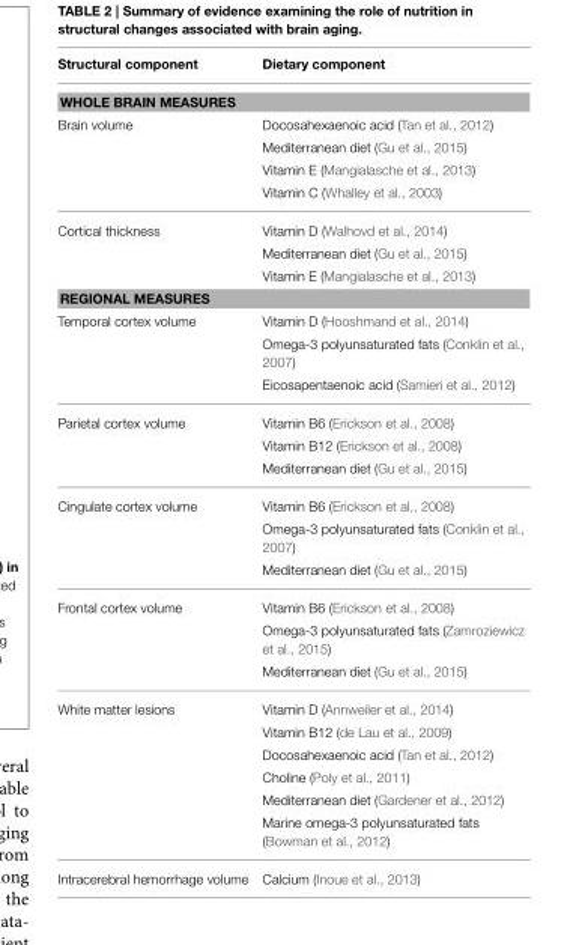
<table><thead><tr><td>Structural component</td><td>Dietary component</td></tr></thead><tbody><tr><td colspan="2">WHOLE BRAIN MEASURES</td></tr><tr><td rowspan="4">Brain volume</td><td>Docosahexaenoic acid (Tan et al., 2012)</td></tr><tr><td>Mediterranean diet (Gu et al., 2015)</td></tr><tr><td>Vitamin E (Mangialasche et al., 2013)</td></tr><tr><td>Vitamin C (Whalley et al., 2003)</td></tr><tr><td rowspan="3">Cortical thickness</td><td>Vitamin D (Walhovd et al., 2014)</td></tr><tr><td>Mediterranean diet (Gu et al., 2015)</td></tr><tr><td>Vitamin E (Mangialasche et al., 2013)</td></tr><tr><td colspan="2">REGIONAL MEASURES</td></tr><tr><td rowspan="3">Temporal cortex volume</td><td>Vitamin D (Hooshmand et al., 2014)</td></tr><tr><td>Omega-3 polyunsaturated fats (Conklin et al., 2007)</td></tr><tr><td>Eicosapentaenoic acid (Samieri et al., 2012)</td></tr><tr><td rowspan="3">Parietal cortex volume</td><td>Vitamin B6 (Erickson et al., 2008)</td></tr><tr><td>Vitamin B12 (Erickson et al., 2008)</td></tr><tr><td>Mediterranean diet (Gu et al., 2015)</td></tr><tr><td rowspan="3">Cingulate cortex volume</td><td>Vitamin B6 (Erickson et al., 2008)</td></tr><tr><td>Omega-3 polyunsaturated fats (Conklin et al., 2007)</td></tr><tr><td>Mediterranean diet (Gu et al., 2015)</td></tr><tr><td rowspan="3">Frontal cortex volume</td><td>Vitamin B6 (Erickson et al., 2008)</td></tr><tr><td>Omega-3 polyunsaturated fats (Zamroziewicz et al., 2015)</td></tr><tr><td>Mediterranean diet (Gu et al., 2015)</td></tr><tr><td rowspan="6">White matter lesions</td><td>Vitamin D (Annweiler et al., 2014)</td></tr><tr><td>Vitamin B12 (de Lau et al., 2009)</td></tr><tr><td>Docosahexaenoic acid (Tan et al., 2012)</td></tr><tr><td>Choline (Poly et al., 2011)</td></tr><tr><td>Mediterranean diet (Gardener et al., 2012)</td></tr><tr><td>Marine omega-3 polyunsaturated fats (Bowman et al., 2012)</td></tr><tr><td>Intracerebral hemorrhage volume</td><td>Calcium (Inoue et al., 2013)</td></tr></tbody></table>